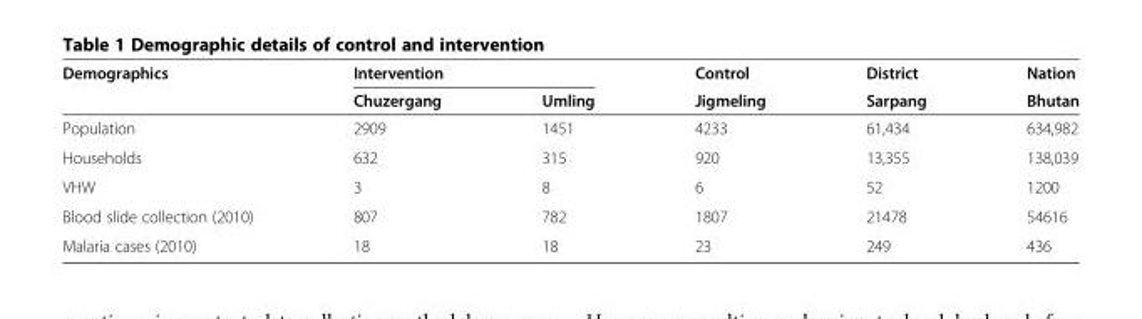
<table><thead><tr><td rowspan="2">Demographics</td><td colspan="2">Intervention</td><td rowspan="2">Control Jigmeling</td><td rowspan="2">District Sarpang</td><td rowspan="2">Nation Bhutan</td></tr><tr><td>Chuzergang</td><td>Umling</td></tr></thead><tbody><tr><td>Population</td><td>2909</td><td>1451</td><td>4233</td><td>61,434</td><td>634,982</td></tr><tr><td>Households</td><td>632</td><td>315</td><td>920</td><td>13,355</td><td>138,039</td></tr><tr><td>VHW</td><td>3</td><td>8</td><td>6</td><td>52</td><td>1200</td></tr><tr><td>Blood slide collection (2010)</td><td>807</td><td>782</td><td>1807</td><td>21478</td><td>54616</td></tr><tr><td>Malaria cases (2010)</td><td>18</td><td>18</td><td>23</td><td>249</td><td>436</td></tr></tbody></table>